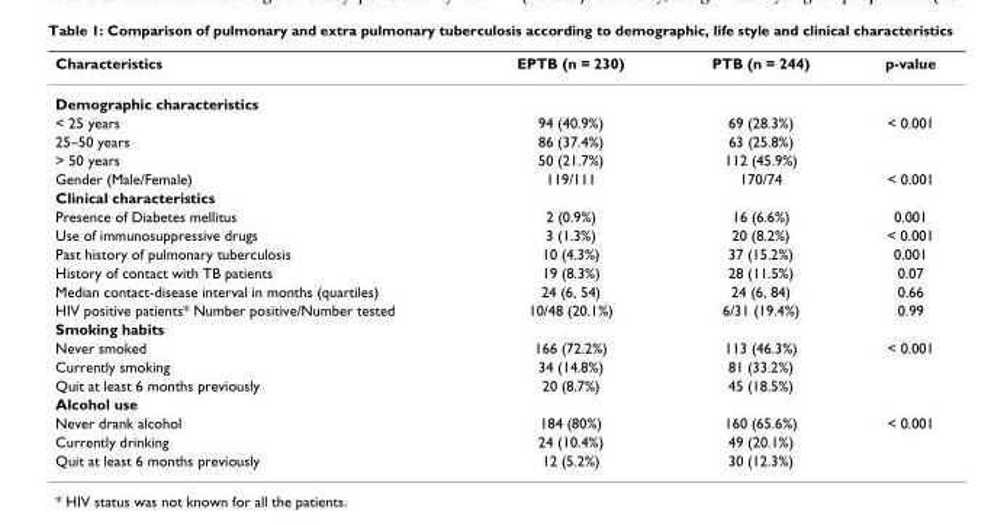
<table><thead><tr><td>Characteristics</td><td>EPTB (n = 230)</td><td>PTB (n = 244)</td><td>p-value</td></tr></thead><tbody><tr><td colspan="4">Demographic characteristics</td></tr><tr><td>&lt; 25 years</td><td>94 (40.9%)</td><td>69 (28.3%)</td><td>&lt; 0.001</td></tr><tr><td>25–50 years</td><td>86 (37.4%)</td><td>63 (25.8%)</td><td></td></tr><tr><td>&gt; 50 years</td><td>50 (21.7%)</td><td>112 (45.9%)</td><td></td></tr><tr><td>Gender (Male/Female)</td><td>119/111</td><td>170/74</td><td>&lt; 0.001</td></tr><tr><td colspan="4">Clinical characteristics</td></tr><tr><td>Presence of Diabetes mellitus</td><td>2 (0.9%)</td><td>16 (6.6%)</td><td>0.001</td></tr><tr><td>Use of immunosuppressive drugs</td><td>3 (1.3%)</td><td>20 (8.2%)</td><td>&lt; 0.001</td></tr><tr><td>Past history of pulmonary tuberculosis</td><td>10 (4.3%)</td><td>37 (15.2%)</td><td>0.001</td></tr><tr><td>History of contact with TB patients</td><td>19 (8.3%)</td><td>28 (11.5%)</td><td>0.07</td></tr><tr><td>Median contact-disease interval in months (quartiles)</td><td>24 (6, 54)</td><td>24 (6, 84)</td><td>0.66</td></tr><tr><td>HIV positive patients* Number positive/Number tested</td><td>10/48 (20.1%)</td><td>6/31 (19.4%)</td><td>0.99</td></tr><tr><td colspan="4">Smoking habits</td></tr><tr><td>Never smoked</td><td>166 (72.2%)</td><td>113 (46.3%)</td><td>&lt; 0.001</td></tr><tr><td>Currently smoking</td><td>34 (14.8%)</td><td>81 (33.2%)</td><td></td></tr><tr><td>Quit at least 6 months previously</td><td>20 (8.7%)</td><td>45 (18.5%)</td><td></td></tr><tr><td colspan="4">Alcohol use</td></tr><tr><td>Never drank alcohol</td><td>184 (80%)</td><td>160 (65.6%)</td><td>&lt; 0.001</td></tr><tr><td>Currently drinking</td><td>24 (10.4%)</td><td>49 (20.1%)</td><td></td></tr><tr><td>Quit at least 6 months previously</td><td>12 (5.2%)</td><td>30 (12.3%)</td><td></td></tr></tbody></table>